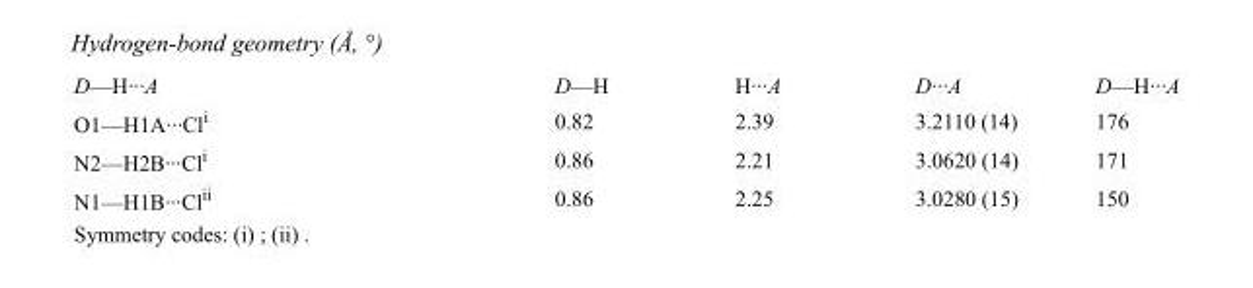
<table><tbody><tr><td>D—H···A</td><td>D—H</td><td>H···A</td><td>D···A</td><td>D—H···A</td></tr><tr><td>O1—H1A···Cl<sup>i</sup></td><td>0.82</td><td>2.39</td><td>3.2110 (14)</td><td>176</td></tr><tr><td>N2—H2B···Cl<sup>i</sup></td><td>0.86</td><td>2.21</td><td>3.0620 (14)</td><td>171</td></tr><tr><td>N1—H1B···Cl<sup>ii</sup></td><td>0.86</td><td>2.25</td><td>3.0280 (15)</td><td>150</td></tr></tbody></table>